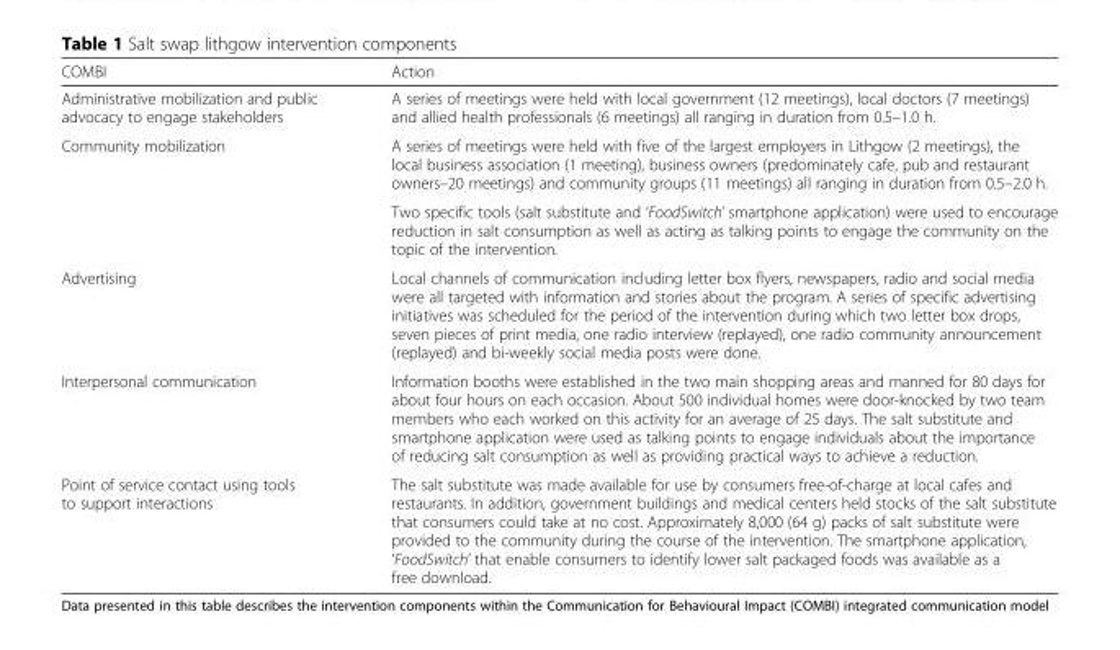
<table><thead><tr><td>COMBI</td><td>Action</td></tr></thead><tbody><tr><td>Administrative mobilization and public advocacy to engage stakeholders</td><td>A series of meetings were held with local government (12 meetings), local doctors (7 meetings) and allied health professionals (6 meetings) all ranging in duration from 0.5–1.0 h.</td></tr><tr><td rowspan="2">Community mobilization</td><td>A series of meetings were held with five of the largest employers in Lithgow (2 meetings), the local business association (1 meeting), business owners (predominately cafe, pub and restaurant owners–20 meetings) and community groups (11 meetings) all ranging in duration from 0.5–2.0 h.</td></tr><tr><td>Two specific tools (salt substitute and ‘FoodSwitch’ smartphone application) were used to encourage reduction in salt consumption as well as acting as talking points to engage the community on the topic of the intervention.</td></tr><tr><td>Advertising</td><td>Local channels of communication including letter box flyers, newspapers, radio and social media were all targeted with information and stories about the program. A series of specific advertising initiatives was scheduled for the period of the intervention during which two letter box drops, seven pieces of print media, one radio interview (replayed), one radio community announcement (replayed) and bi-weekly social media posts were done.</td></tr><tr><td>Interpersonal communication</td><td>Information booths were established in the two main shopping areas and manned for 80 days for about four hours on each occasion. About 500 individual homes were door-knocked by two team members who each worked on this activity for an average of 25 days. The salt substitute and smartphone application were used as talking points to engage individuals about the importance of reducing salt consumption as well as providing practical ways to achieve a reduction.</td></tr><tr><td>Point of service contact using tools to support interactions</td><td>The salt substitute was made available for use by consumers free-of-charge at local cafes and restaurants. In addition, government buildings and medical centers held stocks of the salt substitute that consumers could take at no cost. Approximately 8,000 (64 g) packs of salt substitute were provided to the community during the course of the intervention. The smartphone application, ‘FoodSwitch’ that enable consumers to identify lower salt packaged foods was available as a free download.</td></tr></tbody></table>